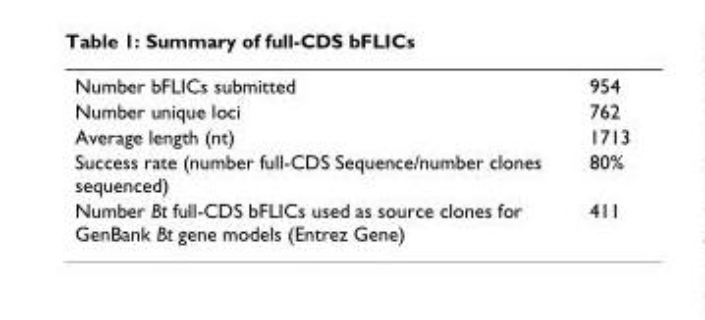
<table><tbody><tr><td>Number bFLICs submitted</td><td>954</td></tr><tr><td>Number unique loci</td><td>762</td></tr><tr><td>Average length (nt)</td><td>1713</td></tr><tr><td>Success rate (number full-CDS Sequence/number clones sequenced)</td><td>80%</td></tr><tr><td>Number Bt full-CDS bFLICs used as source clones for GenBank Bt gene models (Entrez Gene)</td><td>411</td></tr></tbody></table>